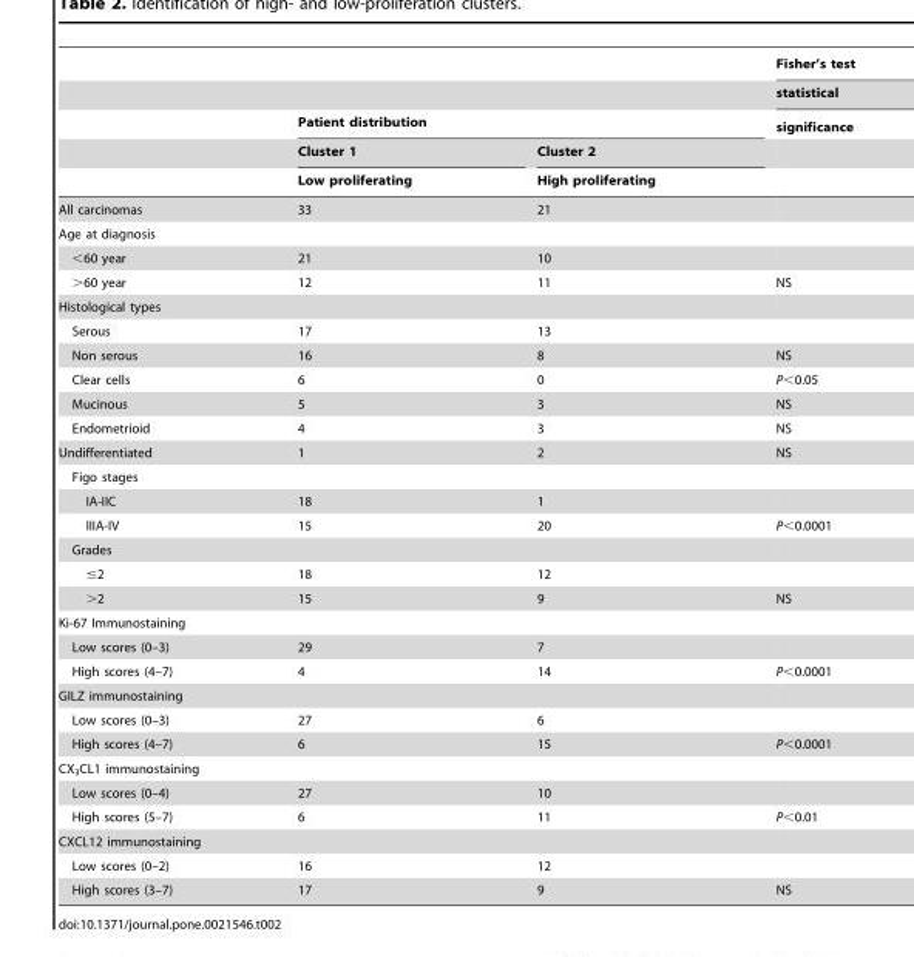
<table><thead><tr><td rowspan="5"></td><td rowspan="2"></td><td rowspan="2"></td><td rowspan="5">Fisher’s test statistical significance</td></tr><tr></tr><tr><td colspan="2">Patient distribution</td></tr><tr><td rowspan="2">Cluster 1 Low proliferating</td><td rowspan="2">Cluster 2 High proliferating</td></tr><tr></tr></thead><tbody><tr><td>All carcinomas</td><td>33</td><td>21</td><td></td></tr><tr><td colspan="4">Age at diagnosis</td></tr><tr><td>&lt;60 year</td><td>21</td><td>10</td><td></td></tr><tr><td>&gt;60 year</td><td>12</td><td>11</td><td>NS</td></tr><tr><td colspan="4">Histological types</td></tr><tr><td>Serous</td><td>17</td><td>13</td><td></td></tr><tr><td>Non serous</td><td>16</td><td>8</td><td>NS</td></tr><tr><td>Clear cells</td><td>6</td><td>0</td><td>P&lt;0.05</td></tr><tr><td>Mucinous</td><td>5</td><td>3</td><td>NS</td></tr><tr><td>Endometrioid</td><td>4</td><td>3</td><td>NS</td></tr><tr><td>Undifferentiated</td><td>1</td><td>2</td><td>NS</td></tr><tr><td colspan="4">Figo stages</td></tr><tr><td>IA-IIC</td><td>18</td><td>1</td><td></td></tr><tr><td>IIIA-IV</td><td>15</td><td>20</td><td>P&lt;0.0001</td></tr><tr><td colspan="4">Grades</td></tr><tr><td>≤2</td><td>18</td><td>12</td><td></td></tr><tr><td>&gt;2</td><td>15</td><td>9</td><td>NS</td></tr><tr><td colspan="4">Ki-67 Immunostaining</td></tr><tr><td>Low scores (0–3)</td><td>29</td><td>7</td><td></td></tr><tr><td>High scores (4–7)</td><td>4</td><td>14</td><td>P&lt;0.0001</td></tr><tr><td colspan="4">GILZ immunostaining</td></tr><tr><td>Low scores (0–3)</td><td>27</td><td>6</td><td></td></tr><tr><td>High scores (4–7)</td><td>6</td><td>15</td><td>P&lt;0.0001</td></tr><tr><td colspan="4">CX<sub>3</sub>CL1 immunostaining</td></tr><tr><td>Low scores (0–4)</td><td>27</td><td>10</td><td></td></tr><tr><td>High scores (5–7)</td><td>6</td><td>11</td><td>P&lt;0.01</td></tr><tr><td colspan="4">CXCL12 immunostaining</td></tr><tr><td>Low scores (0–2)</td><td>16</td><td>12</td><td></td></tr><tr><td>High scores (3–7)</td><td>17</td><td>9</td><td>NS</td></tr></tbody></table>